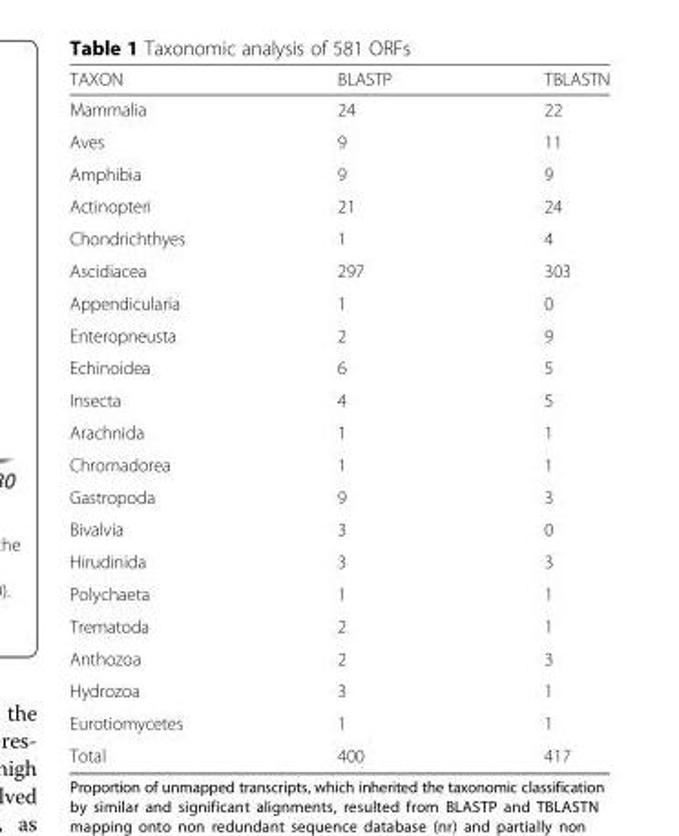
<table><thead><tr><td>TAXON</td><td>BLASTP</td><td>TBLASTN</td></tr></thead><tbody><tr><td>Mammalia</td><td>24</td><td>22</td></tr><tr><td>Aves</td><td>9</td><td>11</td></tr><tr><td>Amphibia</td><td>9</td><td>9</td></tr><tr><td>Actinopteri</td><td>21</td><td>24</td></tr><tr><td>Chondrichthyes</td><td>1</td><td>4</td></tr><tr><td>Ascidiacea</td><td>297</td><td>303</td></tr><tr><td>Appendicularia</td><td>1</td><td>0</td></tr><tr><td>Enteropneusta</td><td>2</td><td>9</td></tr><tr><td>Echinoidea</td><td>6</td><td>5</td></tr><tr><td>Insecta</td><td>4</td><td>5</td></tr><tr><td>Arachnida</td><td>1</td><td>1</td></tr><tr><td>Chromadorea</td><td>1</td><td>1</td></tr><tr><td>Gastropoda</td><td>9</td><td>3</td></tr><tr><td>Bivalvia</td><td>3</td><td>0</td></tr><tr><td>Hirudinida</td><td>3</td><td>3</td></tr><tr><td>Polychaeta</td><td>1</td><td>1</td></tr><tr><td>Trematoda</td><td>2</td><td>1</td></tr><tr><td>Anthozoa</td><td>2</td><td>3</td></tr><tr><td>Hydrozoa</td><td>3</td><td>1</td></tr><tr><td>Eurotiomycetes</td><td>1</td><td>1</td></tr><tr><td>Total</td><td>400</td><td>417</td></tr></tbody></table>